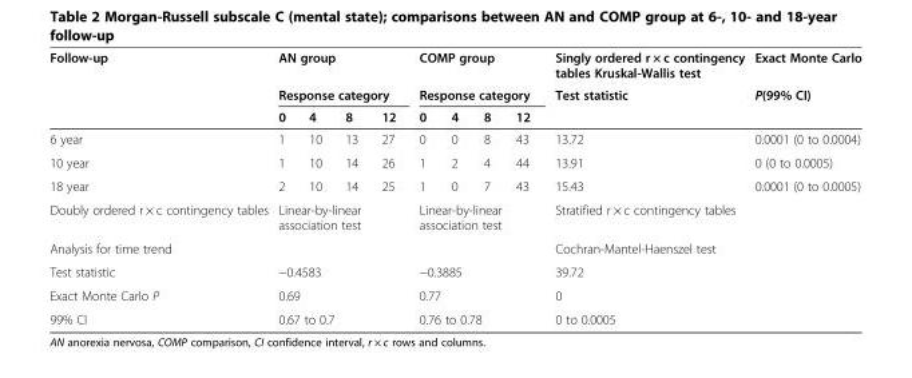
<table><thead><tr><td rowspan="3">Follow-up</td><td rowspan="2" colspan="4">AN group Response category</td><td rowspan="2" colspan="4">COMP group Response category</td><td rowspan="3">Singly ordered r × c contingency tables Kruskal-Wallis test Test statistic</td><td rowspan="3">Exact Monte Carlo P(99% CI)</td></tr><tr></tr><tr><td>0</td><td>4</td><td>8</td><td>12</td><td>0</td><td>4</td><td>8</td><td>12</td></tr></thead><tbody><tr><td>6 year</td><td>1</td><td>10</td><td>13</td><td>27</td><td>0</td><td>0</td><td>8</td><td>43</td><td>13.72</td><td>0.0001 (0 to 0.0004)</td></tr><tr><td>10 year</td><td>1</td><td>10</td><td>14</td><td>26</td><td>1</td><td>2</td><td>4</td><td>44</td><td>13.91</td><td>0 (0 to 0.0005)</td></tr><tr><td>18 year</td><td>2</td><td>10</td><td>14</td><td>25</td><td>1</td><td>0</td><td>7</td><td>43</td><td>15.43</td><td>0.0001 (0 to 0.0005)</td></tr><tr><td>Doubly ordered r × c contingency tables</td><td colspan="4">Linear-by-linear association test</td><td colspan="4">Linear-by-linear association test</td><td>Stratified r × c contingency tables</td><td></td></tr><tr><td>Analysis for time trend</td><td colspan="4"></td><td colspan="4"></td><td>Cochran-Mantel-Haenszel test</td><td></td></tr><tr><td>Test statistic</td><td colspan="4">−0.4583</td><td colspan="4">−0.3885</td><td>39.72</td><td></td></tr><tr><td>Exact Monte Carlo P</td><td colspan="4">0.69</td><td colspan="4">0.77</td><td>0</td><td></td></tr><tr><td>99% CI</td><td colspan="4">0.67 to 0.7</td><td colspan="4">0.76 to 0.78</td><td>0 to 0.0005</td><td></td></tr></tbody></table>